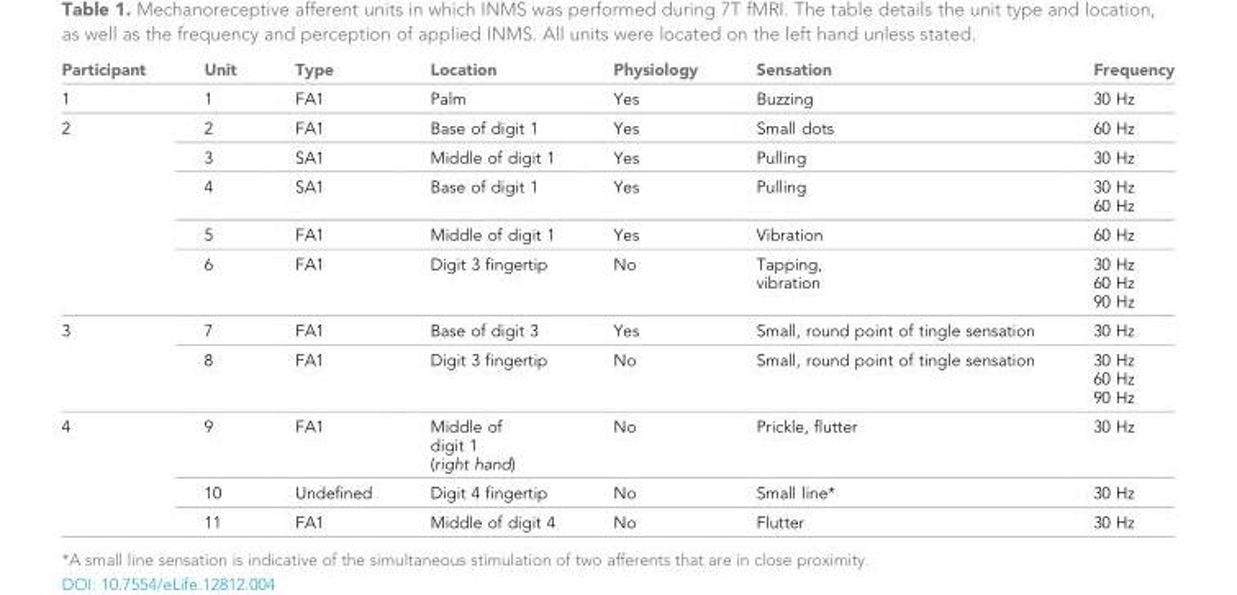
<table><thead><tr><td>Participant</td><td>Unit</td><td>Type</td><td>Location</td><td>Physiology</td><td>Sensation</td><td>Frequency</td></tr></thead><tbody><tr><td>1</td><td>1</td><td>FA1</td><td>Palm</td><td>Yes</td><td>Buzzing</td><td>30 Hz</td></tr><tr><td rowspan="5">2</td><td>2</td><td>FA1</td><td>Base of digit 1</td><td>Yes</td><td>Small dots</td><td>60 Hz</td></tr><tr><td>3</td><td>SA1</td><td>Middle of digit 1</td><td>Yes</td><td>Pulling</td><td>30 Hz</td></tr><tr><td>4</td><td>SA1</td><td>Base of digit 1</td><td>Yes</td><td>Pulling</td><td>30 Hz 60 Hz</td></tr><tr><td>5</td><td>FA1</td><td>Middle of digit 1</td><td>Yes</td><td>Vibration</td><td>60 Hz</td></tr><tr><td>6</td><td>FA1</td><td>Digit 3 fingertip</td><td>No</td><td>Tapping, vibration</td><td>30 Hz 60 Hz 90 Hz</td></tr><tr><td rowspan="2">3</td><td>7</td><td>FA1</td><td>Base of digit 3</td><td>Yes</td><td>Small, round point of tingle sensation</td><td>30 Hz</td></tr><tr><td>8</td><td>FA1</td><td>Digit 3 fingertip</td><td>No</td><td>Small, round point of tingle sensation</td><td>30 Hz 60 Hz 90 Hz</td></tr><tr><td rowspan="3">4</td><td>9</td><td>FA1</td><td>Middle of digit 1 (right hand)</td><td>No</td><td>Prickle, flutter</td><td>30 Hz</td></tr><tr><td>10</td><td>Undefined</td><td>Digit 4 fingertip</td><td>No</td><td>Small line*</td><td>30 Hz</td></tr><tr><td>11</td><td>FA1</td><td>Middle of digit 4</td><td>No</td><td>Flutter</td><td>30 Hz</td></tr></tbody></table>